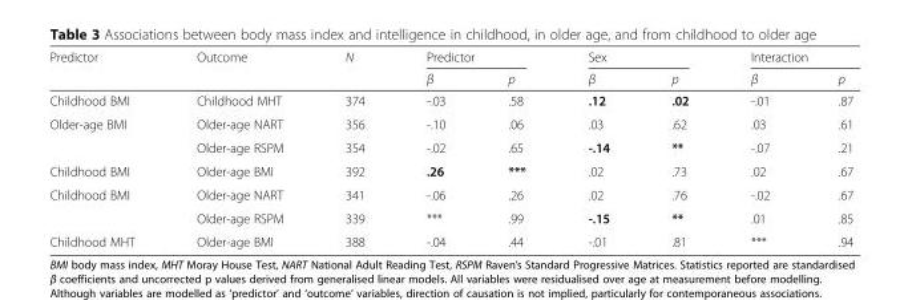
<table><thead><tr><td rowspan="2">Predictor</td><td rowspan="2">Outcome</td><td rowspan="2">N</td><td colspan="2">Predictor</td><td colspan="2">Sex</td><td colspan="2">Interaction</td></tr><tr><td>β</td><td>p</td><td>β</td><td>p</td><td>β</td><td>p</td></tr></thead><tbody><tr><td>Childhood BMI</td><td>Childhood MHT</td><td>374</td><td>-.03</td><td>.58</td><td>.12</td><td>.02</td><td>-.01</td><td>.87</td></tr><tr><td rowspan="2">Older-age BMI</td><td>Older-age NART</td><td>356</td><td>-.10</td><td>.06</td><td>.03</td><td>.62</td><td>.03</td><td>.61</td></tr><tr><td>Older-age RSPM</td><td>354</td><td>-.02</td><td>.65</td><td>-.14</td><td>**</td><td>-.07</td><td>.21</td></tr><tr><td>Childhood BMI</td><td>Older-age BMI</td><td>392</td><td>.26</td><td>***</td><td>.02</td><td>.73</td><td>.02</td><td>.67</td></tr><tr><td rowspan="2">Childhood BMI</td><td>Older-age NART</td><td>341</td><td>-.06</td><td>.26</td><td>.02</td><td>.76</td><td>-.02</td><td>.67</td></tr><tr><td>Older-age RSPM</td><td>339</td><td>***</td><td>.99</td><td>-.15</td><td>**</td><td>.01</td><td>.85</td></tr><tr><td>Childhood MHT</td><td>Older-age BMI</td><td>388</td><td>-.04</td><td>.44</td><td>-.01</td><td>.81</td><td>***</td><td>.94</td></tr></tbody></table>